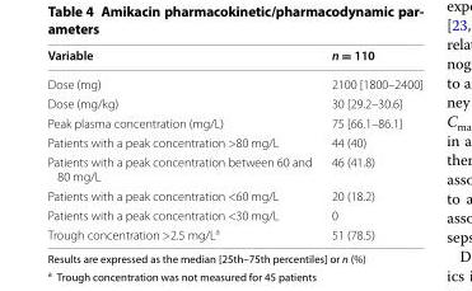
<table><thead><tr><td>Variable</td><td>n = 110</td></tr></thead><tbody><tr><td>Dose (mg)</td><td>2100 [1800–2400]</td></tr><tr><td>Dose (mg/kg)</td><td>30 [29.2–30.6]</td></tr><tr><td>Peak plasma concentration (mg/L)</td><td>75 [66.1–86.1]</td></tr><tr><td>Patients with a peak concentration &gt;80 mg/L</td><td>44 (40)</td></tr><tr><td>Patients with a peak concentration between 60 and 80 mg/L</td><td>46 (41.8)</td></tr><tr><td>Patients with a peak concentration &lt;60 mg/L</td><td>20 (18.2)</td></tr><tr><td>Patients with a peak concentration &lt;30 mg/L</td><td>0</td></tr><tr><td>Trough concentration &gt;2.5 mg/L<sup>a</sup></td><td>51 (78.5)</td></tr></tbody></table>